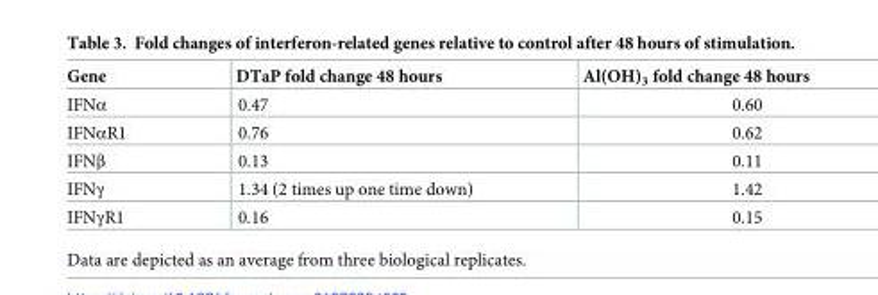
<table><thead><tr><td>Gene</td><td>DTaP fold change 48 hours</td><td>Al(OH)<sub>3</sub> fold change 48 hours</td></tr></thead><tbody><tr><td>IFNα</td><td>0.47</td><td>0.60</td></tr><tr><td>IFNαR1</td><td>0.76</td><td>0.62</td></tr><tr><td>IFNβ</td><td>0.13</td><td>0.11</td></tr><tr><td>IFNγ</td><td>1.34 (2 times up one time down)</td><td>1.42</td></tr><tr><td>IFNγR1</td><td>0.16</td><td>0.15</td></tr></tbody></table>